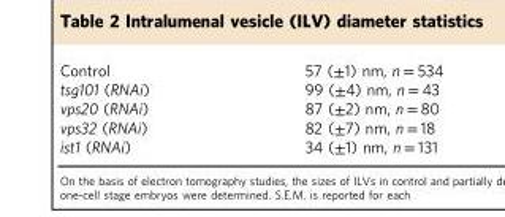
<table><tbody><tr><td>Control</td><td>57 (±1) nm, n = 534</td></tr><tr><td>tsg101 (RNAi)</td><td>99 (±4) nm, n = 43</td></tr><tr><td>vps20 (RNAi)</td><td>87 (±2) nm, n = 80</td></tr><tr><td>vps32 (RNAi)</td><td>82 (±7) nm, n = 18</td></tr><tr><td>ist1 (RNAi)</td><td>34 (±1) nm, n = 131</td></tr></tbody></table>